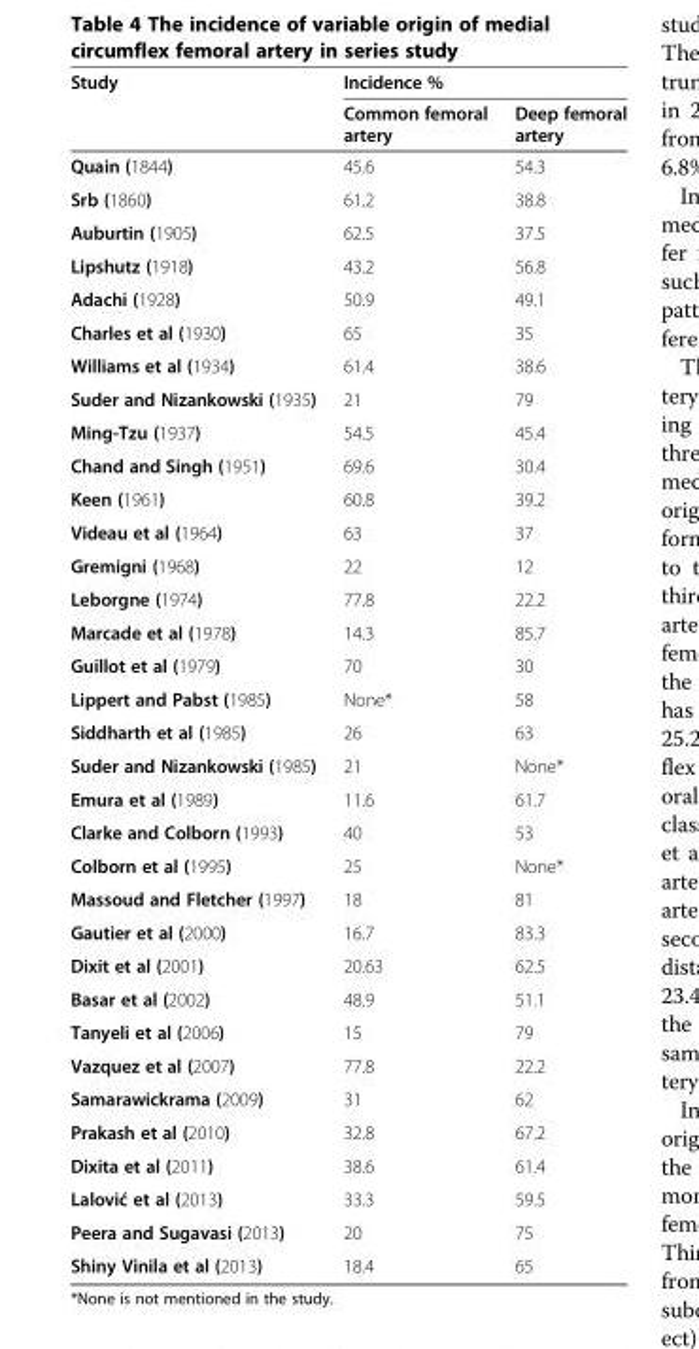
<table><thead><tr><td rowspan="2">Study</td><td colspan="2">Incidence %</td></tr><tr><td>Common femoral artery</td><td>Deep femoral artery</td></tr></thead><tbody><tr><td>Quain (1844)</td><td>45.6</td><td>54.3</td></tr><tr><td>Srb (1860)</td><td>61.2</td><td>38.8</td></tr><tr><td>Auburtin (1905)</td><td>62.5</td><td>37.5</td></tr><tr><td>Lipshutz (1918)</td><td>43.2</td><td>56.8</td></tr><tr><td>Adachi (1928)</td><td>50.9</td><td>49.1</td></tr><tr><td>Charles et al (1930)</td><td>65</td><td>35</td></tr><tr><td>Williams et al (1934)</td><td>61.4</td><td>38.6</td></tr><tr><td>Suder and Nizankowski (1935)</td><td>21</td><td>79</td></tr><tr><td>Ming-Tzu (1937)</td><td>54.5</td><td>45.4</td></tr><tr><td>Chand and Singh (1951)</td><td>69.6</td><td>30.4</td></tr><tr><td>Keen (1961)</td><td>60.8</td><td>39.2</td></tr><tr><td>Videau et al (1964)</td><td>63</td><td>37</td></tr><tr><td>Gremigni (1968)</td><td>22</td><td>12</td></tr><tr><td>Leborgne (1974)</td><td>77.8</td><td>22.2</td></tr><tr><td>Marcade et al (1978)</td><td>14.3</td><td>85.7</td></tr><tr><td>Guillot et al (1979)</td><td>70</td><td>30</td></tr><tr><td>Lippert and Pabst (1985)</td><td>None*</td><td>58</td></tr><tr><td>Siddharth et al (1985)</td><td>26</td><td>63</td></tr><tr><td>Suder and Nizankowski (1985)</td><td>21</td><td>None*</td></tr><tr><td>Emura et al (1989)</td><td>11.6</td><td>61.7</td></tr><tr><td>Clarke and Colborn (1993)</td><td>40</td><td>53</td></tr><tr><td>Colborn et al (1995)</td><td>25</td><td>None*</td></tr><tr><td>Massoud and Fletcher (1997)</td><td>18</td><td>81</td></tr><tr><td>Gautier et al (2000)</td><td>16.7</td><td>83.3</td></tr><tr><td>Dixit et al (2001)</td><td>20.63</td><td>62.5</td></tr><tr><td>Basar et al (2002)</td><td>48.9</td><td>51.1</td></tr><tr><td>Tanyeli et al (2006)</td><td>15</td><td>79</td></tr><tr><td>Vazquez et al (2007)</td><td>77.8</td><td>22.2</td></tr><tr><td>Samarawickrama (2009)</td><td>31</td><td>62</td></tr><tr><td>Prakash et al (2010)</td><td>32.8</td><td>67.2</td></tr><tr><td>Dixita et al (2011)</td><td>38.6</td><td>61.4</td></tr><tr><td>Lalović et al (2013)</td><td>33.3</td><td>59.5</td></tr><tr><td>Peera and Sugavasi (2013)</td><td>20</td><td>75</td></tr><tr><td>Shiny Vinila et al (2013)</td><td>18.4</td><td>65</td></tr></tbody></table>